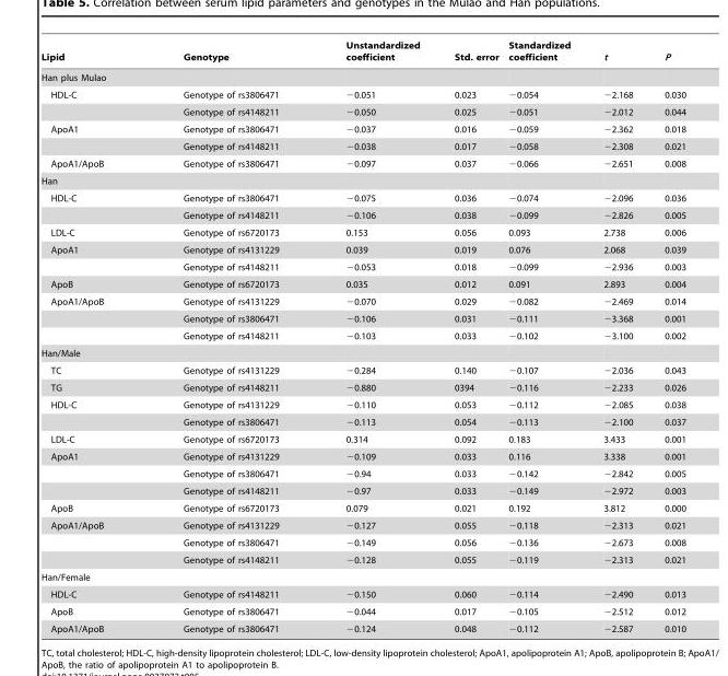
<table><thead><tr><td>Lipid</td><td>Genotype</td><td>Unstandardized coefficient</td><td>Std. error</td><td>Standardized coefficient</td><td>t</td><td>P</td></tr></thead><tbody><tr><td colspan="7">Han plus Mulao</td></tr><tr><td rowspan="2">HDL-C</td><td>Genotype of rs3806471</td><td>−0.051</td><td>0.023</td><td>−0.054</td><td>−2.168</td><td>0.030</td></tr><tr><td>Genotype of rs4148211</td><td>−0.050</td><td>0.025</td><td>−0.051</td><td>−2.012</td><td>0.044</td></tr><tr><td rowspan="2">ApoA1</td><td>Genotype of rs3806471</td><td>−0.037</td><td>0.016</td><td>−0.059</td><td>−2.362</td><td>0.018</td></tr><tr><td>Genotype of rs4148211</td><td>−0.038</td><td>0.017</td><td>−0.058</td><td>−2.308</td><td>0.021</td></tr><tr><td>ApoA1/ApoB</td><td>Genotype of rs3806471</td><td>−0.097</td><td>0.037</td><td>−0.066</td><td>−2.651</td><td>0.008</td></tr><tr><td colspan="7">Han</td></tr><tr><td rowspan="2">HDL-C</td><td>Genotype of rs3806471</td><td>−0.075</td><td>0.036</td><td>−0.074</td><td>−2.096</td><td>0.036</td></tr><tr><td>Genotype of rs4148211</td><td>−0.106</td><td>0.038</td><td>−0.099</td><td>−2.826</td><td>0.005</td></tr><tr><td>LDL-C</td><td>Genotype of rs6720173</td><td>0.153</td><td>0.056</td><td>0.093</td><td>2.738</td><td>0.006</td></tr><tr><td rowspan="2">ApoA1</td><td>Genotype of rs4131229</td><td>0.039</td><td>0.019</td><td>0.076</td><td>2.068</td><td>0.039</td></tr><tr><td>Genotype of rs4148211</td><td>−0.053</td><td>0.018</td><td>−0.099</td><td>−2.936</td><td>0.003</td></tr><tr><td>ApoB</td><td>Genotype of rs6720173</td><td>0.035</td><td>0.012</td><td>0.091</td><td>2.893</td><td>0.004</td></tr><tr><td rowspan="3">ApoA1/ApoB</td><td>Genotype of rs4131229</td><td>−0.070</td><td>0.029</td><td>−0.082</td><td>−2.469</td><td>0.014</td></tr><tr><td>Genotype of rs3806471</td><td>−0.106</td><td>0.031</td><td>−0.111</td><td>−3.368</td><td>0.001</td></tr><tr><td>Genotype of rs4148211</td><td>−0.103</td><td>0.033</td><td>−0.102</td><td>−3.100</td><td>0.002</td></tr><tr><td colspan="7">Han/Male</td></tr><tr><td>TC</td><td>Genotype of rs4131229</td><td>−0.284</td><td>0.140</td><td>−0.107</td><td>−2.036</td><td>0.043</td></tr><tr><td>TG</td><td>Genotype of rs4148211</td><td>−0.880</td><td>0394</td><td>−0.116</td><td>−2.233</td><td>0.026</td></tr><tr><td rowspan="2">HDL-C</td><td>Genotype of rs4131229</td><td>−0.110</td><td>0.053</td><td>−0.112</td><td>−2.085</td><td>0.038</td></tr><tr><td>Genotype of rs3806471</td><td>−0.113</td><td>0.054</td><td>−0.113</td><td>−2.100</td><td>0.037</td></tr><tr><td>LDL-C</td><td>Genotype of rs6720173</td><td>0.314</td><td>0.092</td><td>0.183</td><td>3.433</td><td>0.001</td></tr><tr><td rowspan="3">ApoA1</td><td>Genotype of rs4131229</td><td>−0.109</td><td>0.033</td><td>0.116</td><td>3.338</td><td>0.001</td></tr><tr><td>Genotype of rs3806471</td><td>−0.94</td><td>0.033</td><td>−0.142</td><td>−2.842</td><td>0.005</td></tr><tr><td>Genotype of rs4148211</td><td>−0.97</td><td>0.033</td><td>−0.149</td><td>−2.972</td><td>0.003</td></tr><tr><td>ApoB</td><td>Genotype of rs6720173</td><td>0.079</td><td>0.021</td><td>0.192</td><td>3.812</td><td>0.000</td></tr><tr><td rowspan="3">ApoA1/ApoB</td><td>Genotype of rs4131229</td><td>−0.127</td><td>0.055</td><td>−0.118</td><td>−2.313</td><td>0.021</td></tr><tr><td>Genotype of rs3806471</td><td>−0.149</td><td>0.056</td><td>−0.136</td><td>−2.673</td><td>0.008</td></tr><tr><td>Genotype of rs4148211</td><td>−0.128</td><td>0.055</td><td>−0.119</td><td>−2.313</td><td>0.021</td></tr><tr><td colspan="7">Han/Female</td></tr><tr><td>HDL-C</td><td>Genotype of rs4148211</td><td>−0.150</td><td>0.060</td><td>−0.114</td><td>−2.490</td><td>0.013</td></tr><tr><td>ApoB</td><td>Genotype of rs3806471</td><td>−0.044</td><td>0.017</td><td>−0.105</td><td>−2.512</td><td>0.012</td></tr><tr><td>ApoA1/ApoB</td><td>Genotype of rs3806471</td><td>−0.124</td><td>0.048</td><td>−0.112</td><td>−2.587</td><td>0.010</td></tr></tbody></table>